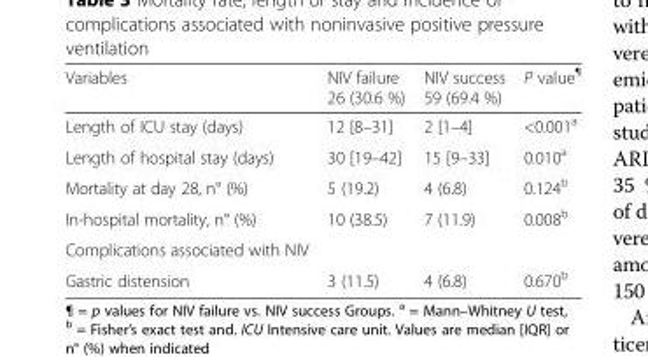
<table><thead><tr><td>Variables</td><td>NIV failure 26 (30.6 %)</td><td>NIV success 59 (69.4 %)</td><td>P value<sup>¶</sup></td></tr></thead><tbody><tr><td>Length of ICU stay (days)</td><td>12 [8–31]</td><td>2 [1–4]</td><td>&lt;0.001<sup>a</sup></td></tr><tr><td>Length of hospital stay (days)</td><td>30 [19–42]</td><td>15 [9–33]</td><td>0.010<sup>a</sup></td></tr><tr><td>Mortality at day 28, n° (%)</td><td>5 (19.2)</td><td>4 (6.8)</td><td>0.124<sup>b</sup></td></tr><tr><td>In-hospital mortality, n° (%)</td><td>10 (38.5)</td><td>7 (11.9)</td><td>0.008<sup>b</sup></td></tr><tr><td colspan="4">Complications associated with NIV</td></tr><tr><td>Gastric distension</td><td>3 (11.5)</td><td>4 (6.8)</td><td>0.670<sup>b</sup></td></tr></tbody></table>